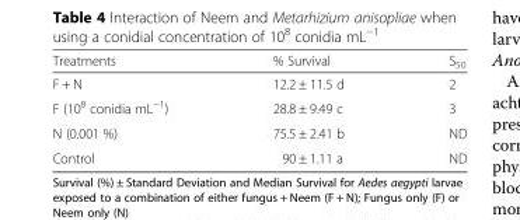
<table><thead><tr><td>Treatments</td><td>% Survival</td><td>S<sub>50</sub></td></tr></thead><tbody><tr><td>F + N</td><td>12.2 ± 11.5 d</td><td>2</td></tr><tr><td>F (10<sup>8</sup> conidia mL<sup>−1</sup>)</td><td>28.8 ± 9.49 c</td><td>3</td></tr><tr><td>N (0.001 %)</td><td>75.5 ± 2.41 b</td><td>ND</td></tr><tr><td>Control</td><td>90 ± 1.11 a</td><td>ND</td></tr></tbody></table>